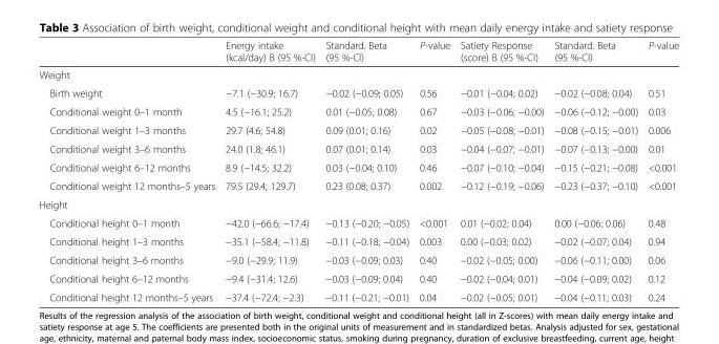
<table><thead><tr><td></td><td>Energy intake (kcal/day) B (95 %-CI)</td><td>Standard. Beta (95 %-CI)</td><td>P-value</td><td>Satiety Response (score) B (95 %-CI)</td><td>Standard. Beta (95 %-CI)</td><td>P-value</td></tr></thead><tbody><tr><td colspan="7">Weight</td></tr><tr><td>Birth weight</td><td>−7.1 (−30.9; 16.7)</td><td>−0.02 (−0.09; 0.05)</td><td>0.56</td><td>−0.01 (−0.04; 0.02)</td><td>−0.02 (−0.08; 0.04)</td><td>0.51</td></tr><tr><td>Conditional weight 0–1 month</td><td>4.5 (−16.1; 25.2)</td><td>0.01 (−0.05; 0.08)</td><td>0.67</td><td>−0.03 (−0.06; −0.00)</td><td>−0.06 (−0.12; −0.00)</td><td>0.03</td></tr><tr><td>Conditional weight 1–3 months</td><td>29.7 (4.6; 54.8)</td><td>0.09 (0.01; 0.16)</td><td>0.02</td><td>−0.05 (−0.08; −0.01)</td><td>−0.08 (−0.15; −0.01)</td><td>0.006</td></tr><tr><td>Conditional weight 3–6 months</td><td>24.0 (1.8; 46.1)</td><td>0.07 (0.01; 0.14)</td><td>0.03</td><td>−0.04 (−0.07; −0.01)</td><td>−0.07 (−0.13; −0.00)</td><td>0.01</td></tr><tr><td>Conditional weight 6–12 months</td><td>8.9 (−14.5; 32.2)</td><td>0.03 (−0.04; 0.10)</td><td>0.46</td><td>−0.07 (−0.10; −0.04)</td><td>−0.15 (−0.21; −0.08)</td><td>&lt;0.001</td></tr><tr><td>Conditional weight 12 months–5 years</td><td>79.5 (29.4; 129.7)</td><td>0.23 (0.08; 0.37)</td><td>0.002</td><td>−0.12 (−0.19; −0.06)</td><td>−0.23 (−0.37; −0.10)</td><td>&lt;0.001</td></tr><tr><td colspan="7">Height</td></tr><tr><td>Conditional height 0–1 month</td><td>−42.0 (−66.6; −17.4)</td><td>−0.13 (−0.20; −0.05)</td><td>&lt;0.001</td><td>0.01 (−0.02; 0.04)</td><td>0.00 (−0.06; 0.06)</td><td>0.48</td></tr><tr><td>Conditional height 1–3 months</td><td>−35.1 (−58.4; −11.8)</td><td>−0.11 (−0.18; −0.04)</td><td>0.003</td><td>0.00 (−0.03; 0.02)</td><td>−0.02 (−0.07; 0.04)</td><td>0.94</td></tr><tr><td>Conditional height 3–6 months</td><td>−9.0 (−29.9; 11.9)</td><td>−0.03 (−0.09; 0.03)</td><td>0.40</td><td>−0.02 (−0.05; 0.00)</td><td>−0.06 (−0.11; 0.00)</td><td>0.06</td></tr><tr><td>Conditional height 6–12 months</td><td>−9.4 (−31.4; 12.6)</td><td>−0.03 (−0.09; 0.04)</td><td>0.40</td><td>−0.02 (−0.04; 0.01)</td><td>−0.04 (−0.09; 0.02)</td><td>0.12</td></tr><tr><td>Conditional height 12 months–5 years</td><td>−37.4 (−72.4; −2.3)</td><td>−0.11 (−0.21; −0.01)</td><td>0.04</td><td>−0.02 (−0.05; 0.01)</td><td>−0.04 (−0.11; 0.03)</td><td>0.24</td></tr></tbody></table>